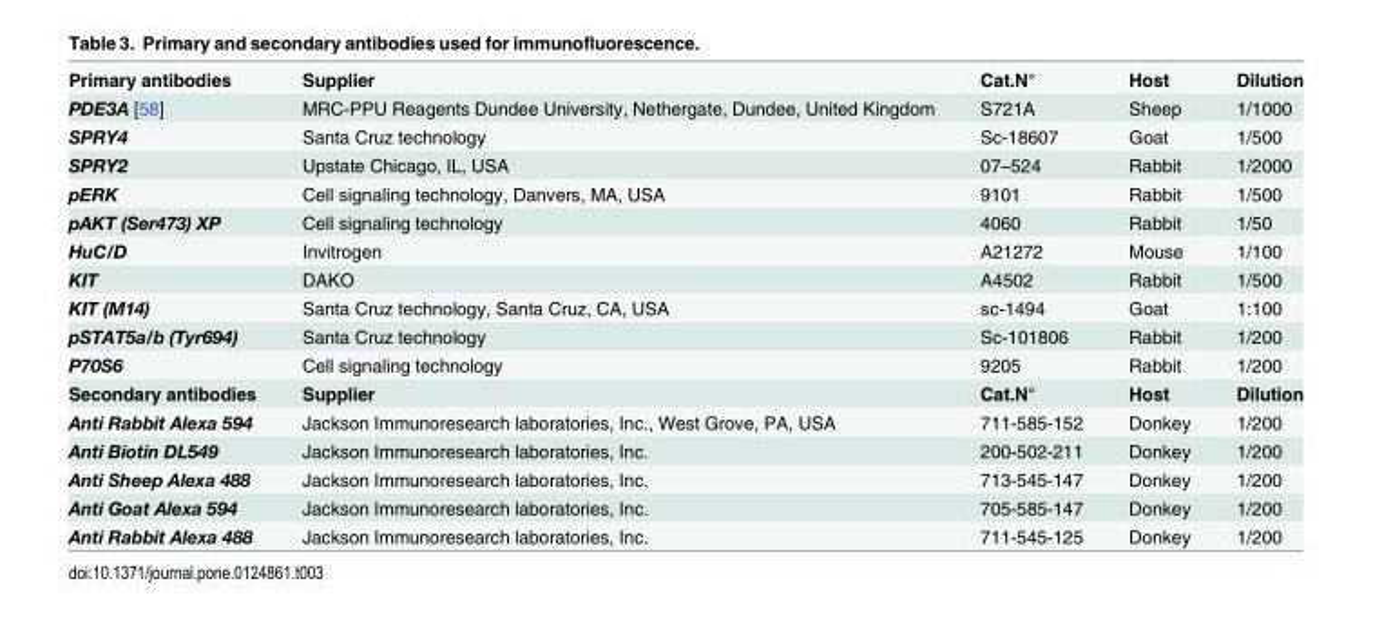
<table><tbody><tr><td>Primary antibodies</td><td>Supplier</td><td>Cat.N°</td><td>Host</td><td>Dilution</td></tr><tr><td>PDE3A [58]</td><td>MRC-PPU Reagents Dundee University, Nethergate, Dundee, United Kingdom</td><td>S721A</td><td>Sheep</td><td>1/1000</td></tr><tr><td>SPRY4</td><td>Santa Cruz technology</td><td>Sc-18607</td><td>Goat</td><td>1/500</td></tr><tr><td>SPRY2</td><td>Upstate Chicago, IL, USA</td><td>07–524</td><td>Rabbit</td><td>1/2000</td></tr><tr><td>pERK</td><td>Cell signaling technology, Danvers, MA, USA</td><td>9101</td><td>Rabbit</td><td>1/500</td></tr><tr><td>pAKT (Ser473) XP</td><td>Cell signaling technology</td><td>4060</td><td>Rabbit</td><td>1/50</td></tr><tr><td>HuC/D</td><td>Invitrogen</td><td>A21272</td><td>Mouse</td><td>1/100</td></tr><tr><td>KIT</td><td>DAKO</td><td>A4502</td><td>Rabbit</td><td>1/500</td></tr><tr><td>KIT (M14)</td><td>Santa Cruz technology, Santa Cruz, CA, USA</td><td>sc-1494</td><td>Goat</td><td>1:100</td></tr><tr><td>pSTAT5a/b (Tyr694)</td><td>Santa Cruz technology</td><td>Sc-101806</td><td>Rabbit</td><td>1/200</td></tr><tr><td>P70S6</td><td>Cell signaling technology</td><td>9205</td><td>Rabbit</td><td>1/200</td></tr><tr><td>Secondary antibodies</td><td>Supplier</td><td>Cat.N°</td><td>Host</td><td>Dilution</td></tr><tr><td>Anti Rabbit Alexa 594</td><td>Jackson Immunoresearch laboratories, Inc., West Grove, PA, USA</td><td>711-585-152</td><td>Donkey</td><td>1/200</td></tr><tr><td>Anti Biotin DL549</td><td>Jackson Immunoresearch laboratories, Inc.</td><td>200-502-211</td><td>Donkey</td><td>1/200</td></tr><tr><td>Anti Sheep Alexa 488</td><td>Jackson Immunoresearch laboratories, Inc.</td><td>713-545-147</td><td>Donkey</td><td>1/200</td></tr><tr><td>Anti Goat Alexa 594</td><td>Jackson Immunoresearch laboratories, Inc.</td><td>705-585-147</td><td>Donkey</td><td>1/200</td></tr><tr><td>Anti Rabbit Alexa 488</td><td>Jackson Immunoresearch laboratories, Inc.</td><td>711-545-125</td><td>Donkey</td><td>1/200</td></tr></tbody></table>